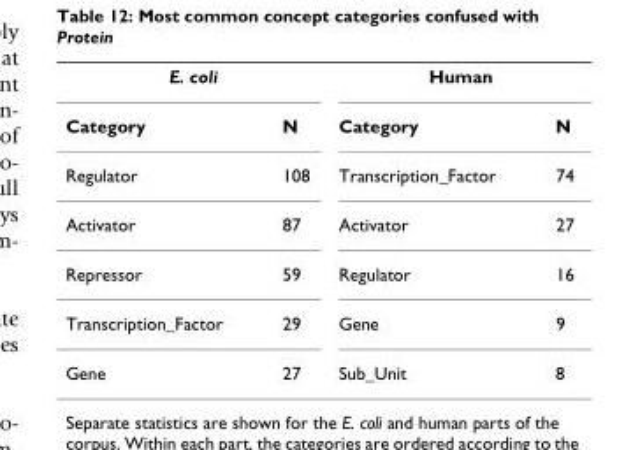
<table><tbody><tr><td colspan="2">E. coli</td><td colspan="2">Human</td></tr><tr><td>Category</td><td>N</td><td>Category</td><td>N</td></tr><tr><td>Regulator</td><td>108</td><td>Transcription_Factor</td><td>74</td></tr><tr><td>Activator</td><td>87</td><td>Activator</td><td>27</td></tr><tr><td>Repressor</td><td>59</td><td>Regulator</td><td>16</td></tr><tr><td>Transcription_Factor</td><td>29</td><td>Gene</td><td>9</td></tr><tr><td>Gene</td><td>27</td><td>Sub_Unit</td><td>8</td></tr></tbody></table>